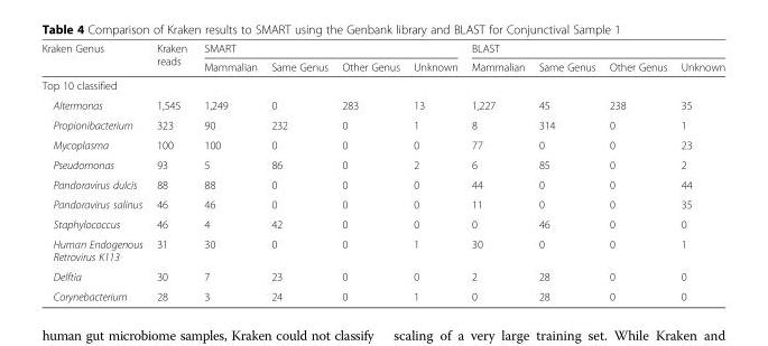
<table><thead><tr><td rowspan="2">Kraken Genus</td><td rowspan="2">Kraken reads</td><td colspan="4">SMART</td><td colspan="4">BLAST</td></tr><tr><td>Mammalian</td><td>Same Genus</td><td>Other Genus</td><td>Unknown</td><td>Mammalian</td><td>Same Genus</td><td>Other Genus</td><td>Unknown</td></tr></thead><tbody><tr><td colspan="10">Top 10 classified</td></tr><tr><td>Altermonas</td><td>1,545</td><td>1,249</td><td>0</td><td>283</td><td>13</td><td>1,227</td><td>45</td><td>238</td><td>35</td></tr><tr><td>Propionibacterium</td><td>323</td><td>90</td><td>232</td><td>0</td><td>1</td><td>8</td><td>314</td><td>0</td><td>1</td></tr><tr><td>Mycoplasma</td><td>100</td><td>100</td><td>0</td><td>0</td><td>0</td><td>77</td><td>0</td><td>0</td><td>23</td></tr><tr><td>Pseudomonas</td><td>93</td><td>5</td><td>86</td><td>0</td><td>2</td><td>6</td><td>85</td><td>0</td><td>2</td></tr><tr><td>Pandoravirus dulcis</td><td>88</td><td>88</td><td>0</td><td>0</td><td>0</td><td>44</td><td>0</td><td>0</td><td>44</td></tr><tr><td>Pandoravirus salinus</td><td>46</td><td>46</td><td>0</td><td>0</td><td>0</td><td>11</td><td>0</td><td>0</td><td>35</td></tr><tr><td>Staphylococcus</td><td>46</td><td>4</td><td>42</td><td>0</td><td>0</td><td>0</td><td>46</td><td>0</td><td>0</td></tr><tr><td>Human Endogenous Retrovirus K113</td><td>31</td><td>30</td><td>0</td><td>0</td><td>1</td><td>30</td><td>0</td><td>0</td><td>1</td></tr><tr><td>Delftia</td><td>30</td><td>7</td><td>23</td><td>0</td><td>0</td><td>2</td><td>28</td><td>0</td><td>0</td></tr><tr><td>Corynebacterium</td><td>28</td><td>3</td><td>24</td><td>0</td><td>1</td><td>0</td><td>28</td><td>0</td><td>0</td></tr></tbody></table>